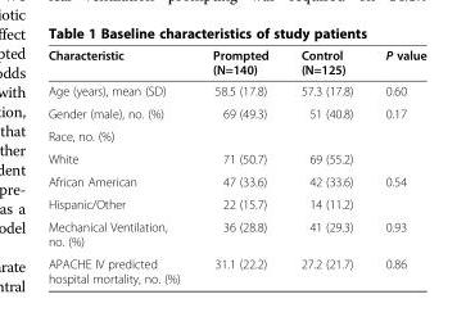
<table><thead><tr><td>Characteristic</td><td>Prompted (N=140)</td><td>Control (N=125)</td><td>P value</td></tr></thead><tbody><tr><td>Age (years), mean (SD)</td><td>58.5 (17.8)</td><td>57.3 (17.8)</td><td>0.60</td></tr><tr><td>Gender (male), no. (%)</td><td>69 (49.3)</td><td>51 (40.8)</td><td>0.17</td></tr><tr><td colspan="4">Race, no. (%)</td></tr><tr><td>White</td><td>71 (50.7)</td><td>69 (55.2)</td><td></td></tr><tr><td>African American</td><td>47 (33.6)</td><td>42 (33.6)</td><td>0.54</td></tr><tr><td>Hispanic/Other</td><td>22 (15.7)</td><td>14 (11.2)</td><td></td></tr><tr><td>Mechanical Ventilation, no. (%)</td><td>36 (28.8)</td><td>41 (29.3)</td><td>0.93</td></tr><tr><td>APACHE IV predicted hospital mortality, no. (%)</td><td>31.1 (22.2)</td><td>27.2 (21.7)</td><td>0.86</td></tr></tbody></table>